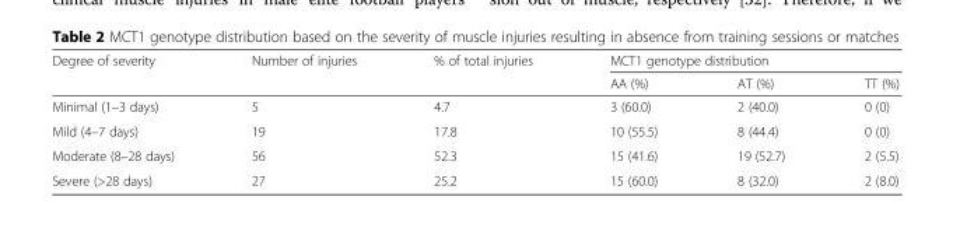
<table><thead><tr><td rowspan="2">Degree of severity</td><td rowspan="2">Number of injuries</td><td rowspan="2">% of total injuries</td><td colspan="3">MCT1 genotype distribution</td></tr><tr><td>AA (%)</td><td>AT (%)</td><td>TT (%)</td></tr></thead><tbody><tr><td>Minimal (1–3 days)</td><td>5</td><td>4.7</td><td>3 (60.0)</td><td>2 (40.0)</td><td>0 (0)</td></tr><tr><td>Mild (4–7 days)</td><td>19</td><td>17.8</td><td>10 (55.5)</td><td>8 (44.4)</td><td>0 (0)</td></tr><tr><td>Moderate (8–28 days)</td><td>56</td><td>52.3</td><td>15 (41.6)</td><td>19 (52.7)</td><td>2 (5.5)</td></tr><tr><td>Severe (&gt;28 days)</td><td>27</td><td>25.2</td><td>15 (60.0)</td><td>8 (32.0)</td><td>2 (8.0)</td></tr></tbody></table>